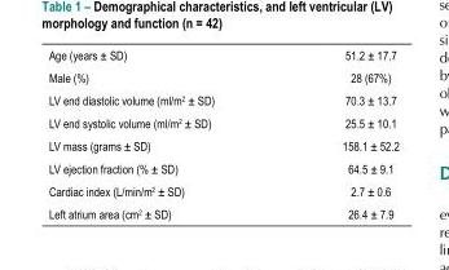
<table><tbody><tr><td>Age (years ± SD)</td><td>51.2 ± 17.7</td></tr><tr><td>Male (%)</td><td>28 (67%)</td></tr><tr><td>LV end diastolic volume (ml/m<sup>2</sup> ± SD)</td><td>70.3 ± 13.7</td></tr><tr><td>LV end systolic volume (ml/m<sup>2</sup> ± SD)</td><td>25.5 ± 10.1</td></tr><tr><td>LV mass (grams ± SD)</td><td>158.1 ± 52.2</td></tr><tr><td>LV ejection fraction (% ± SD)</td><td>64.5 ± 9.1</td></tr><tr><td>Cardiac index (L/min/m<sup>2</sup> ± SD)</td><td>2.7 ± 0.6</td></tr><tr><td>Left atrium area (cm<sup>2</sup> ± SD)</td><td>26.4 ± 7.9</td></tr></tbody></table>